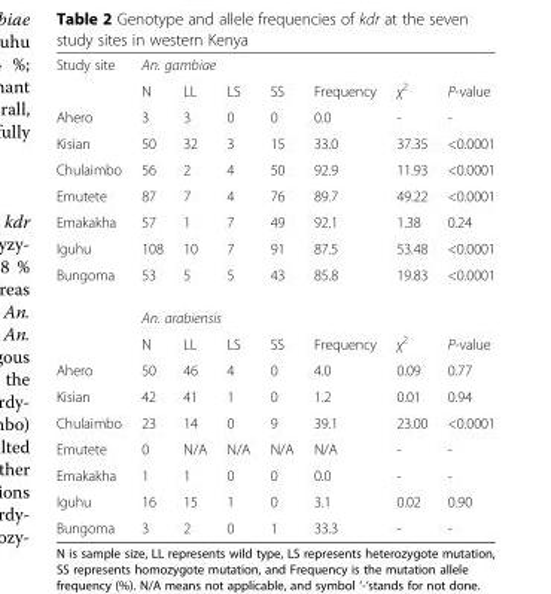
<table><tbody><tr><td rowspan="2">Study site</td><td colspan="6">An. gambiae</td><td></td></tr><tr><td>N</td><td>LL</td><td>LS</td><td>SS</td><td>Frequency</td><td>χ<sup>2</sup></td><td>P-value</td></tr><tr><td>Ahero</td><td>3</td><td>3</td><td>0</td><td>0</td><td>0.0</td><td>-</td><td>-</td></tr><tr><td>Kisian</td><td>50</td><td>32</td><td>3</td><td>15</td><td>33.0</td><td>37.35</td><td>&lt;0.0001</td></tr><tr><td>Chulaimbo</td><td>56</td><td>2</td><td>4</td><td>50</td><td>92.9</td><td>11.93</td><td>&lt;0.0001</td></tr><tr><td>Emutete</td><td>87</td><td>7</td><td>4</td><td>76</td><td>89.7</td><td>49.22</td><td>&lt;0.0001</td></tr><tr><td>Emakakha</td><td>57</td><td>1</td><td>7</td><td>49</td><td>92.1</td><td>1.38</td><td>0.24</td></tr><tr><td>Iguhu</td><td>108</td><td>10</td><td>7</td><td>91</td><td>87.5</td><td>53.48</td><td>&lt;0.0001</td></tr><tr><td rowspan="3">Bungoma</td><td>53</td><td>5</td><td>5</td><td>43</td><td>85.8</td><td>19.83</td><td>&lt;0.0001</td></tr><tr><td colspan="7">An. arabiensis</td></tr><tr><td>N</td><td>LL</td><td>LS</td><td>SS</td><td>Frequency</td><td>χ<sup>2</sup></td><td>P-value</td></tr><tr><td>Ahero</td><td>50</td><td>46</td><td>4</td><td>0</td><td>4.0</td><td>0.09</td><td>0.77</td></tr><tr><td>Kisian</td><td>42</td><td>41</td><td>1</td><td>0</td><td>1.2</td><td>0.01</td><td>0.94</td></tr><tr><td>Chulaimbo</td><td>23</td><td>14</td><td>0</td><td>9</td><td>39.1</td><td>23.00</td><td>&lt;0.0001</td></tr><tr><td>Emutete</td><td>0</td><td>N/A</td><td>N/A</td><td>N/A</td><td>N/A</td><td>-</td><td>-</td></tr><tr><td>Emakakha</td><td>1</td><td>1</td><td>0</td><td>0</td><td>0.0</td><td>-</td><td>-</td></tr><tr><td>Iguhu</td><td>16</td><td>15</td><td>1</td><td>0</td><td>3.1</td><td>0.02</td><td>0.90</td></tr><tr><td>Bungoma</td><td>3</td><td>2</td><td>0</td><td>1</td><td>33.3</td><td>-</td><td>-</td></tr></tbody></table>